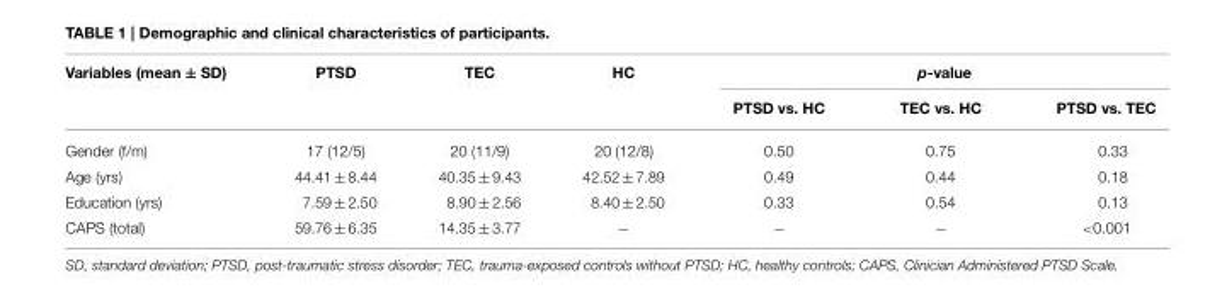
<table><thead><tr><td rowspan="2">Variables (mean ± SD)</td><td rowspan="2">PTSD</td><td rowspan="2">TEC</td><td rowspan="2">HC</td><td colspan="3">p-value</td></tr><tr><td>PTSD vs. HC</td><td>TEC vs. HC</td><td>PTSD vs. TEC</td></tr></thead><tbody><tr><td>Gender (f/m)</td><td>17 (12/5)</td><td>20 (11/9)</td><td>20 (12/8)</td><td>0.50</td><td>0.75</td><td>0.33</td></tr><tr><td>Age (yrs)</td><td>44.41 ± 8.44</td><td>40.35 ± 9.43</td><td>42.52 ± 7.89</td><td>0.49</td><td>0.44</td><td>0.18</td></tr><tr><td>Education (yrs)</td><td>7.59 ± 2.50</td><td>8.90 ± 2.56</td><td>8.40 ± 2.50</td><td>0.33</td><td>0.54</td><td>0.13</td></tr><tr><td>CAPS (total)</td><td>59.76 ± 6.35</td><td>14.35 ± 3.77</td><td>−</td><td>−</td><td>−</td><td>&lt;0.001</td></tr></tbody></table>